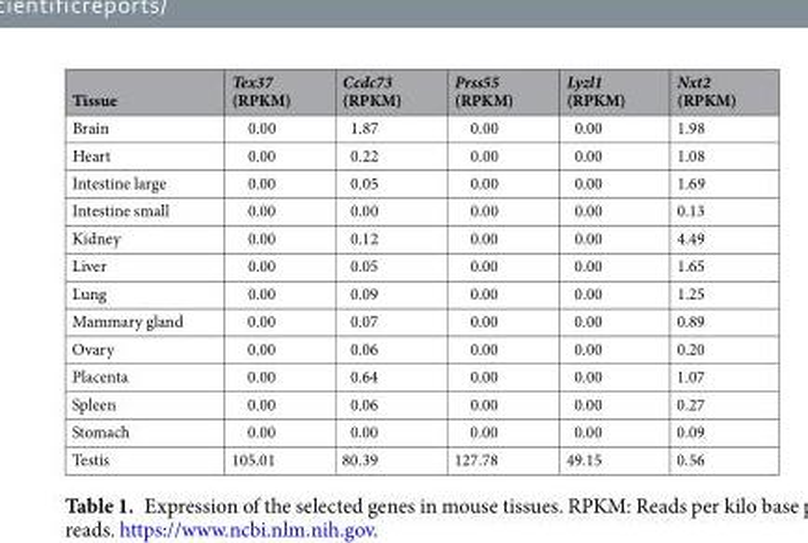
<table><thead><tr><td>Tissue</td><td>Tex37 (RPKM)</td><td>Ccdc73 (RPKM)</td><td>Prss55 (RPKM)</td><td>Lyzl1 (RPKM)</td><td>Nxt2 (RPKM)</td></tr></thead><tbody><tr><td>Brain</td><td>0.00</td><td>1.87</td><td>0.00</td><td>0.00</td><td>1.98</td></tr><tr><td>Heart</td><td>0.00</td><td>0.22</td><td>0.00</td><td>0.00</td><td>1.08</td></tr><tr><td>Intestine large</td><td>0.00</td><td>0.05</td><td>0.00</td><td>0.00</td><td>1.69</td></tr><tr><td>Intestine small</td><td>0.00</td><td>0.00</td><td>0.00</td><td>0.00</td><td>0.13</td></tr><tr><td>Kidney</td><td>0.00</td><td>0.12</td><td>0.00</td><td>0.00</td><td>4.49</td></tr><tr><td>Liver</td><td>0.00</td><td>0.05</td><td>0.00</td><td>0.00</td><td>1.65</td></tr><tr><td>Lung</td><td>0.00</td><td>0.09</td><td>0.00</td><td>0.00</td><td>1.25</td></tr><tr><td>Mammary gland</td><td>0.00</td><td>0.07</td><td>0.00</td><td>0.00</td><td>0.89</td></tr><tr><td>Ovary</td><td>0.00</td><td>0.06</td><td>0.00</td><td>0.00</td><td>0.20</td></tr><tr><td>Placenta</td><td>0.00</td><td>0.64</td><td>0.00</td><td>0.00</td><td>1.07</td></tr><tr><td>Spleen</td><td>0.00</td><td>0.06</td><td>0.00</td><td>0.00</td><td>0.27</td></tr><tr><td>Stomach</td><td>0.00</td><td>0.00</td><td>0.00</td><td>0.00</td><td>0.09</td></tr><tr><td>Testis</td><td>105.01</td><td>80.39</td><td>127.78</td><td>49.15</td><td>0.56</td></tr></tbody></table>